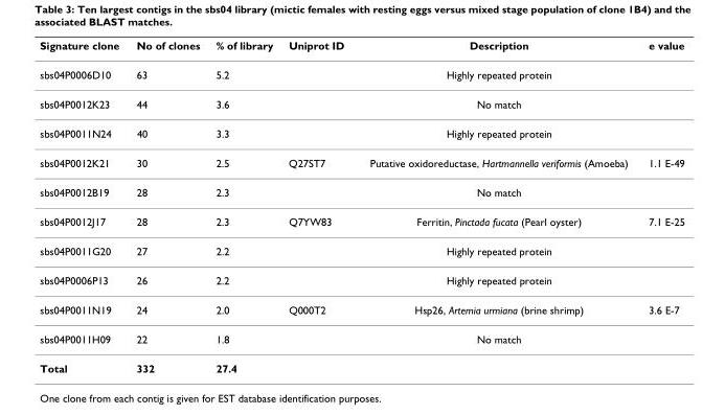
<table><thead><tr><td>Signature clone</td><td>No of clones</td><td>% of library</td><td>Uniprot ID</td><td>Description</td><td>e value</td></tr></thead><tbody><tr><td>sbs04P0006D10</td><td>63</td><td>5.2</td><td></td><td>Highly repeated protein</td><td></td></tr><tr><td>sbs04P0012K23</td><td>44</td><td>3.6</td><td></td><td>No match</td><td></td></tr><tr><td>sbs04P0011N24</td><td>40</td><td>3.3</td><td></td><td>Highly repeated protein</td><td></td></tr><tr><td>sbs04P0012K21</td><td>30</td><td>2.5</td><td>Q27ST7</td><td>Putative oxidoreductase, Hartmannella veriformis (Amoeba)</td><td>1.1 E-49</td></tr><tr><td>sbs04P0012B19</td><td>28</td><td>2.3</td><td></td><td>No match</td><td></td></tr><tr><td>sbs04P0012J17</td><td>28</td><td>2.3</td><td>Q7YW83</td><td>Ferritin, Pinctada fucata (Pearl oyster)</td><td>7.1 E-25</td></tr><tr><td>sbs04P0011G20</td><td>27</td><td>2.2</td><td></td><td>Highly repeated protein</td><td></td></tr><tr><td>sbs04P0006P13</td><td>26</td><td>2.2</td><td></td><td>Highly repeated protein</td><td></td></tr><tr><td>sbs04P0011N19</td><td>24</td><td>2.0</td><td>Q000T2</td><td>Hsp26, Artemia urmiana (brine shrimp)</td><td>3.6 E-7</td></tr><tr><td>sbs04P0011H09</td><td>22</td><td>1.8</td><td></td><td>No match</td><td></td></tr><tr><td>Total</td><td>332</td><td>27.4</td><td></td><td></td><td></td></tr></tbody></table>